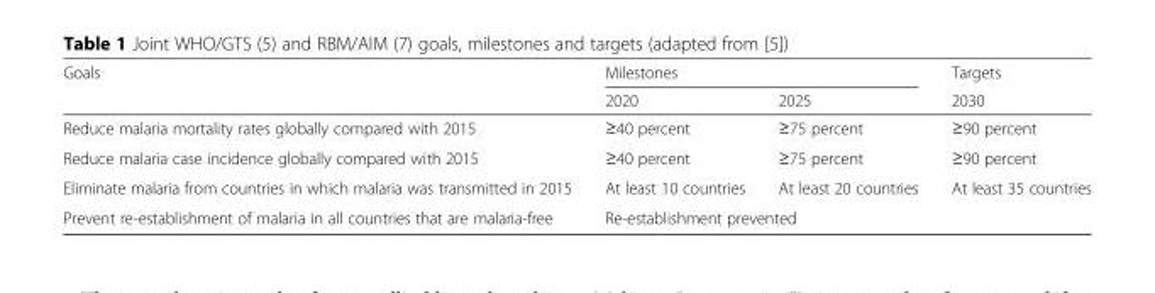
<table><thead><tr><td rowspan="2">Goals</td><td colspan="2">Milestones</td><td rowspan="2">Targets 2030</td></tr><tr><td>2020</td><td>2025</td></tr></thead><tbody><tr><td>Reduce malaria mortality rates globally compared with 2015</td><td>≥40 percent</td><td>≥75 percent</td><td>≥90 percent</td></tr><tr><td>Reduce malaria case incidence globally compared with 2015</td><td>≥40 percent</td><td>≥75 percent</td><td>≥90 percent</td></tr><tr><td>Eliminate malaria from countries in which malaria was transmitted in 2015</td><td>At least 10 countries</td><td>At least 20 countries</td><td>At least 35 countries</td></tr><tr><td>Prevent re-establishment of malaria in all countries that are malaria-free</td><td colspan="3">Re-establishment prevented</td></tr></tbody></table>